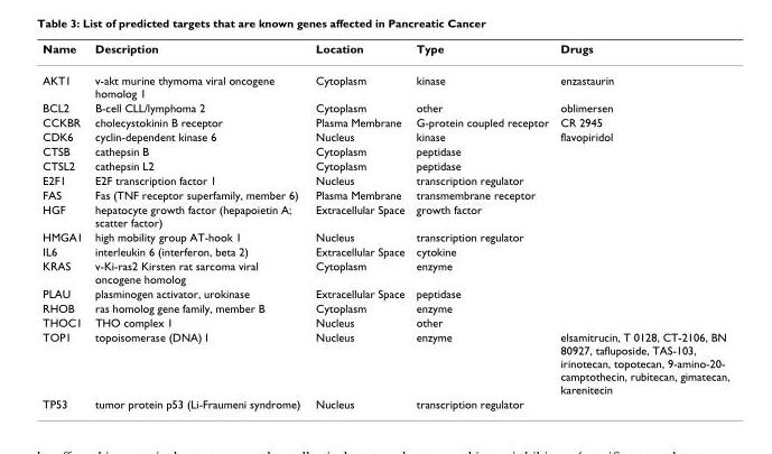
<table><thead><tr><td>Name</td><td>Description</td><td>Location</td><td>Type</td><td>Drugs</td></tr></thead><tbody><tr><td>AKT1</td><td>v-akt murine thymoma viral oncogene homolog 1</td><td>Cytoplasm</td><td>kinase</td><td>enzastaurin</td></tr><tr><td>BCL2</td><td>B-cell CLL/lymphoma 2</td><td>Cytoplasm</td><td>other</td><td>oblimersen</td></tr><tr><td>CCKBR</td><td>cholecystokinin B receptor</td><td>Plasma Membrane</td><td>G-protein coupled receptor</td><td>CR 2945</td></tr><tr><td>CDK6</td><td>cyclin-dependent kinase 6</td><td>Nucleus</td><td>kinase</td><td>flavopiridol</td></tr><tr><td>CTSB</td><td>cathepsin B</td><td>Cytoplasm</td><td>peptidase</td><td></td></tr><tr><td>CTSL2</td><td>cathepsin L2</td><td>Cytoplasm</td><td>peptidase</td><td></td></tr><tr><td>E2F1</td><td>E2F transcription factor 1</td><td>Nucleus</td><td>transcription regulator</td><td></td></tr><tr><td>FAS</td><td>Fas (TNF receptor superfamily, member 6)</td><td>Plasma Membrane</td><td>transmembrane receptor</td><td></td></tr><tr><td>HGF</td><td>hepatocyte growth factor (hepapoietin A; scatter factor)</td><td>Extracellular Space</td><td>growth factor</td><td></td></tr><tr><td>HMGA1</td><td>high mobility group AT-hook 1</td><td>Nucleus</td><td>transcription regulator</td><td></td></tr><tr><td>IL6</td><td>interleukin 6 (interferon, beta 2)</td><td>Extracellular Space</td><td>cytokine</td><td></td></tr><tr><td>KRAS</td><td>v-Ki-ras2 Kirsten rat sarcoma viral oncogene homolog</td><td>Cytoplasm</td><td>enzyme</td><td></td></tr><tr><td>PLAU</td><td>plasminogen activator, urokinase</td><td>Extracellular Space</td><td>peptidase</td><td></td></tr><tr><td>RHOB</td><td>ras homolog gene family, member B</td><td>Cytoplasm</td><td>enzyme</td><td></td></tr><tr><td>THOC1</td><td>THO complex 1</td><td>Nucleus</td><td>other</td><td></td></tr><tr><td>TOP1</td><td>topoisomerase (DNA) I</td><td>Nucleus</td><td>enzyme</td><td>elsamitrucin, T 0128, CT-2106, BN 80927, tafluposide, TAS-103, irinotecan, topotecan, 9-amino-20- camptothecin, rubitecan, gimatecan, karenitecin</td></tr><tr><td>TP53</td><td>tumor protein p53 (Li-Fraumeni syndrome)</td><td>Nucleus</td><td>transcription regulator</td><td></td></tr></tbody></table>